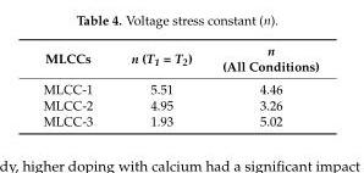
<table><thead><tr><td>MLCCs</td><td>n (T<sub>1</sub> = T<sub>2</sub>)</td><td>n (All Conditions)</td></tr></thead><tbody><tr><td>MLCC-1</td><td>5.51</td><td>4.46</td></tr><tr><td>MLCC-2</td><td>4.95</td><td>3.26</td></tr><tr><td>MLCC-3</td><td>1.93</td><td>5.02</td></tr></tbody></table>